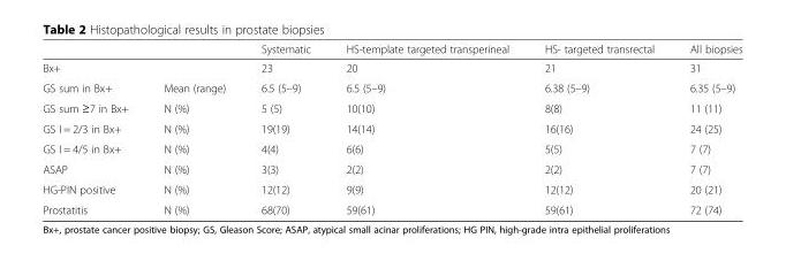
<table><thead><tr><td></td><td></td><td>Systematic</td><td>HS-template targeted transperineal</td><td>HS- targeted transrectal</td><td>All biopsies</td></tr></thead><tbody><tr><td colspan="2">Bx+</td><td>23</td><td>20</td><td>21</td><td>31</td></tr><tr><td>GS sum in Bx+</td><td>Mean (range)</td><td>6.5 (5–9)</td><td>6.5 (5–9)</td><td>6.38 (5–9)</td><td>6.35 (5–9)</td></tr><tr><td>GS sum ≥7 in Bx+</td><td>N (%)</td><td>5 (5)</td><td>10(10)</td><td>8(8)</td><td>11 (11)</td></tr><tr><td>GS I = 2/3 in Bx+</td><td>N (%)</td><td>19(19)</td><td>14(14)</td><td>16(16)</td><td>24 (25)</td></tr><tr><td>GS I = 4/5 in Bx+</td><td>N (%)</td><td>4(4)</td><td>6(6)</td><td>5(5)</td><td>7 (7)</td></tr><tr><td>ASAP</td><td>N (%)</td><td>3(3)</td><td>2(2)</td><td>2(2)</td><td>7 (7)</td></tr><tr><td>HG-PIN positive</td><td>N (%)</td><td>12(12)</td><td>9(9)</td><td>12(12)</td><td>20 (21)</td></tr><tr><td>Prostatitis</td><td>N (%)</td><td>68(70)</td><td>59(61)</td><td>59(61)</td><td>72 (74)</td></tr></tbody></table>